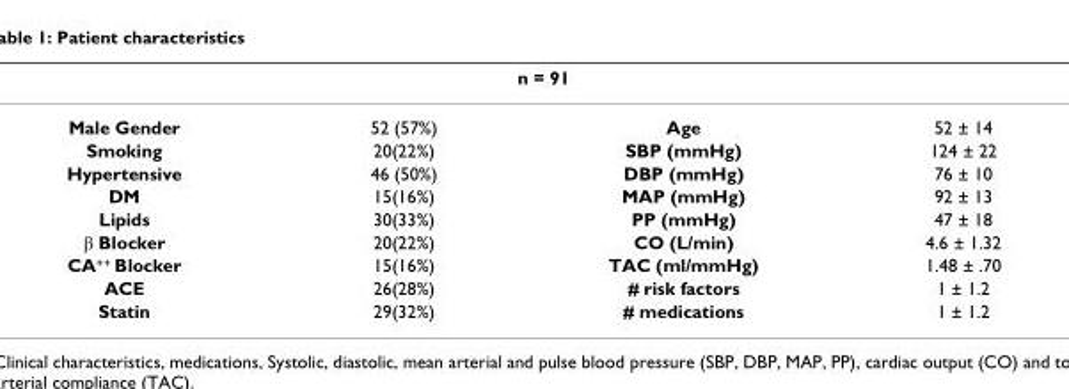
<table><thead><tr><td colspan="4">n = 91</td></tr><tr><td>Male Gender</td><td>52 (57%)</td><td>Age</td><td>52 ± 14</td></tr></thead><tbody><tr><td>Smoking</td><td>20(22%)</td><td>SBP (mmHg)</td><td>124 ± 22</td></tr><tr><td>Hypertensive</td><td>46 (50%)</td><td>DBP (mmHg)</td><td>76 ± 10</td></tr><tr><td>DM</td><td>15(16%)</td><td>MAP (mmHg)</td><td>92 ± 13</td></tr><tr><td>Lipids</td><td>30(33%)</td><td>PP (mmHg)</td><td>47 ± 18</td></tr><tr><td>β Blocker</td><td>20(22%)</td><td>CO (L/min)</td><td>4.6 ± 1.32</td></tr><tr><td>CA<sup>++</sup> Blocker</td><td>15(16%)</td><td>TAC (ml/mmHg)</td><td>1.48 ± .70</td></tr><tr><td>ACE</td><td>26(28%)</td><td># risk factors</td><td>1 ± 1.2</td></tr><tr><td>Statin</td><td>29(32%)</td><td># medications</td><td>1 ± 1.2</td></tr></tbody></table>